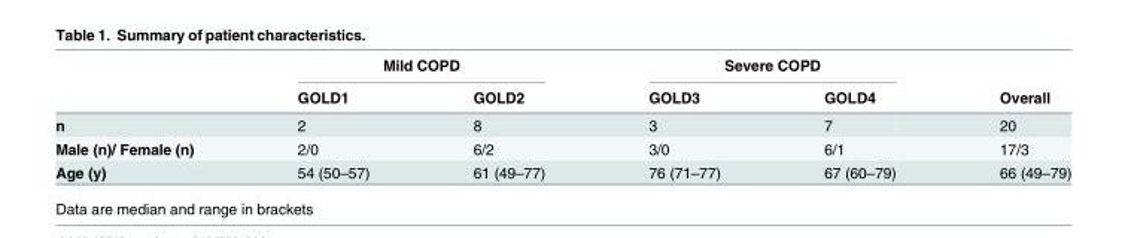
<table><thead><tr><td rowspan="2"></td><td colspan="2">Mild COPD</td><td colspan="2">Severe COPD</td><td rowspan="2">Overall</td></tr><tr><td>GOLD1</td><td>GOLD2</td><td>GOLD3</td><td>GOLD4</td></tr></thead><tbody><tr><td>n</td><td>2</td><td>8</td><td>3</td><td>7</td><td>20</td></tr><tr><td>Male (n)/ Female (n)</td><td>2/0</td><td>6/2</td><td>3/0</td><td>6/1</td><td>17/3</td></tr><tr><td>Age (y)</td><td>54 (50–57)</td><td>61 (49–77)</td><td>76 (71–77)</td><td>67 (60–79)</td><td>66 (49–79)</td></tr></tbody></table>